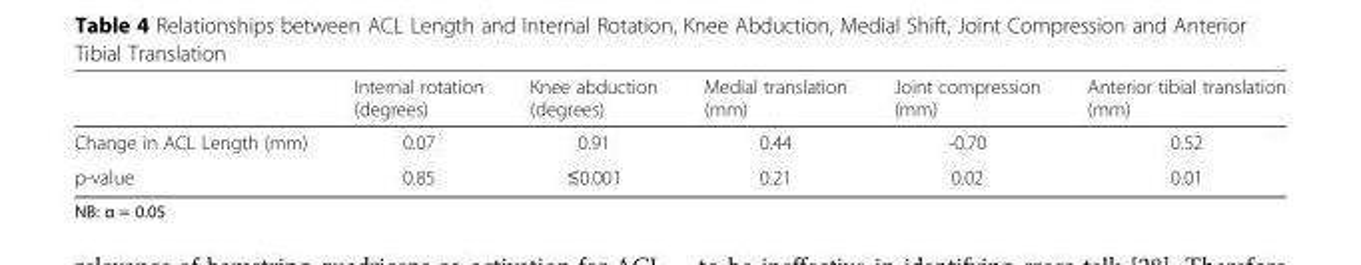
<table><thead><tr><td></td><td>Internal rotation (degrees)</td><td>Knee abduction (degrees)</td><td>Medial translation (mm)</td><td>Joint compression (mm)</td><td>Anterior tibial translation (mm)</td></tr></thead><tbody><tr><td>Change in ACL Length (mm)</td><td>0.07</td><td>0.91</td><td>0.44</td><td>-0.70</td><td>0.52</td></tr><tr><td>p-value</td><td>0.85</td><td>≤0.001</td><td>0.21</td><td>0.02</td><td>0.01</td></tr></tbody></table>